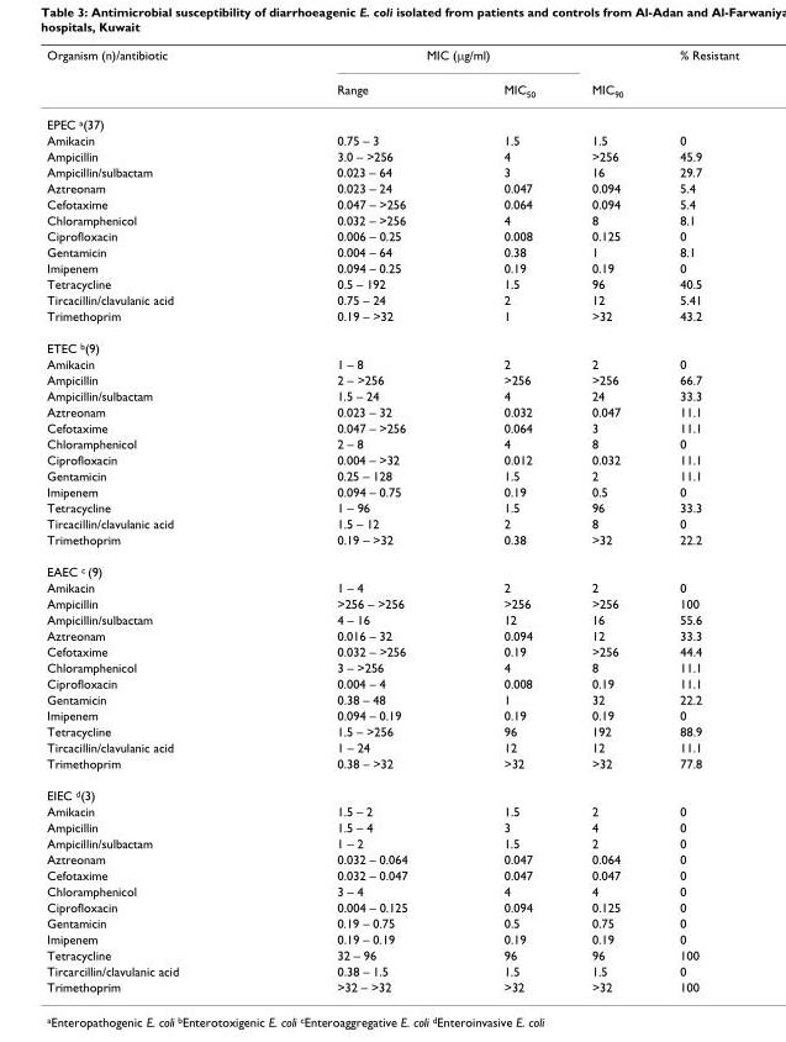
<table><thead><tr><td rowspan="2">Organism (n)/antibiotic</td><td colspan="2">MIC (μg/ml)</td><td rowspan="2">MIC<sub>90</sub></td><td rowspan="2">% Resistant</td></tr><tr><td>Range</td><td>MIC<sub>50</sub></td></tr></thead><tbody><tr><td colspan="5">EPEC <sup>a</sup>(37)</td></tr><tr><td>Amikacin</td><td>0.75 – 3</td><td>1.5</td><td>1.5</td><td>0</td></tr><tr><td>Ampicillin</td><td>3.0 – &gt;256</td><td>4</td><td>&gt;256</td><td>45.9</td></tr><tr><td>Ampicillin/sulbactam</td><td>0.023 – 64</td><td>3</td><td>16</td><td>29.7</td></tr><tr><td>Aztreonam</td><td>0.023 – 24</td><td>0.047</td><td>0.094</td><td>5.4</td></tr><tr><td>Cefotaxime</td><td>0.047 – &gt;256</td><td>0.064</td><td>0.094</td><td>5.4</td></tr><tr><td>Chloramphenicol</td><td>0.032 – &gt;256</td><td>4</td><td>8</td><td>8.1</td></tr><tr><td>Ciprofloxacin</td><td>0.006 – 0.25</td><td>0.008</td><td>0.125</td><td>0</td></tr><tr><td>Gentamicin</td><td>0.004 – 64</td><td>0.38</td><td>1</td><td>8.1</td></tr><tr><td>Imipenem</td><td>0.094 – 0.25</td><td>0.19</td><td>0.19</td><td>0</td></tr><tr><td>Tetracycline</td><td>0.5 – 192</td><td>1.5</td><td>96</td><td>40.5</td></tr><tr><td>Tircacillin/clavulanic acid</td><td>0.75 – 24</td><td>2</td><td>12</td><td>5.41</td></tr><tr><td>Trimethoprim</td><td>0.19 – &gt;32</td><td>1</td><td>&gt;32</td><td>43.2</td></tr><tr><td colspan="5">ETEC <sup>b</sup>(9)</td></tr><tr><td>Amikacin</td><td>1 – 8</td><td>2</td><td>2</td><td>0</td></tr><tr><td>Ampicillin</td><td>2 – &gt;256</td><td>&gt;256</td><td>&gt;256</td><td>66.7</td></tr><tr><td>Ampicillin/sulbactam</td><td>1.5 – 24</td><td>4</td><td>24</td><td>33.3</td></tr><tr><td>Aztreonam</td><td>0.023 – 32</td><td>0.032</td><td>0.047</td><td>11.1</td></tr><tr><td>Cefotaxime</td><td>0.047 – &gt;256</td><td>0.064</td><td>3</td><td>11.1</td></tr><tr><td>Chloramphenicol</td><td>2 – 8</td><td>4</td><td>8</td><td>0</td></tr><tr><td>Ciprofloxacin</td><td>0.004 – &gt;32</td><td>0.012</td><td>0.032</td><td>11.1</td></tr><tr><td>Gentamicin</td><td>0.25 – 128</td><td>1.5</td><td>2</td><td>11.1</td></tr><tr><td>Imipenem</td><td>0.094 – 0.75</td><td>0.19</td><td>0.5</td><td>0</td></tr><tr><td>Tetracycline</td><td>1 – 96</td><td>1.5</td><td>96</td><td>33.3</td></tr><tr><td>Tircacillin/clavulanic acid</td><td>1.5 – 12</td><td>2</td><td>8</td><td>0</td></tr><tr><td>Trimethoprim</td><td>0.19 – &gt;32</td><td>0.38</td><td>&gt;32</td><td>22.2</td></tr><tr><td colspan="5">EAEC <sup>c</sup> (9)</td></tr><tr><td>Amikacin</td><td>1 – 4</td><td>2</td><td>2</td><td>0</td></tr><tr><td>Ampicillin</td><td>&gt;256 – &gt;256</td><td>&gt;256</td><td>&gt;256</td><td>100</td></tr><tr><td>Ampicillin/sulbactam</td><td>4 – 16</td><td>12</td><td>16</td><td>55.6</td></tr><tr><td>Aztreonam</td><td>0.016 – 32</td><td>0.094</td><td>12</td><td>33.3</td></tr><tr><td>Cefotaxime</td><td>0.032 – &gt;256</td><td>0.19</td><td>&gt;256</td><td>44.4</td></tr><tr><td>Chloramphenicol</td><td>3 – &gt;256</td><td>4</td><td>8</td><td>11.1</td></tr><tr><td>Ciprofloxacin</td><td>0.004 – 4</td><td>0.008</td><td>0.19</td><td>11.1</td></tr><tr><td>Gentamicin</td><td>0.38 – 48</td><td>1</td><td>32</td><td>22.2</td></tr><tr><td>Imipenem</td><td>0.094 – 0.19</td><td>0.19</td><td>0.19</td><td>0</td></tr><tr><td>Tetracycline</td><td>1.5 – &gt;256</td><td>96</td><td>192</td><td>88.9</td></tr><tr><td>Tircacillin/clavulanic acid</td><td>1 – 24</td><td>12</td><td>12</td><td>11.1</td></tr><tr><td>Trimethoprim</td><td>0.38 – &gt;32</td><td>&gt;32</td><td>&gt;32</td><td>77.8</td></tr><tr><td colspan="5">EIEC <sup>d</sup>(3)</td></tr><tr><td>Amikacin</td><td>1.5 – 2</td><td>1.5</td><td>2</td><td>0</td></tr><tr><td>Ampicillin</td><td>1.5 – 4</td><td>3</td><td>4</td><td>0</td></tr><tr><td>Ampicillin/sulbactam</td><td>1 – 2</td><td>1.5</td><td>2</td><td>0</td></tr><tr><td>Aztreonam</td><td>0.032 – 0.064</td><td>0.047</td><td>0.064</td><td>0</td></tr><tr><td>Cefotaxime</td><td>0.032 – 0.047</td><td>0.047</td><td>0.047</td><td>0</td></tr><tr><td>Chloramphenicol</td><td>3 – 4</td><td>4</td><td>4</td><td>0</td></tr><tr><td>Ciprofloxacin</td><td>0.004 – 0.125</td><td>0.094</td><td>0.125</td><td>0</td></tr><tr><td>Gentamicin</td><td>0.19 – 0.75</td><td>0.5</td><td>0.75</td><td>0</td></tr><tr><td>Imipenem</td><td>0.19 – 0.19</td><td>0.19</td><td>0.19</td><td>0</td></tr><tr><td>Tetracycline</td><td>32 – 96</td><td>96</td><td>96</td><td>100</td></tr><tr><td>Tircarcillin/clavulanic acid</td><td>0.38 – 1.5</td><td>1.5</td><td>1.5</td><td>0</td></tr><tr><td>Trimethoprim</td><td>&gt;32 – &gt;32</td><td>&gt;32</td><td>&gt;32</td><td>100</td></tr></tbody></table>